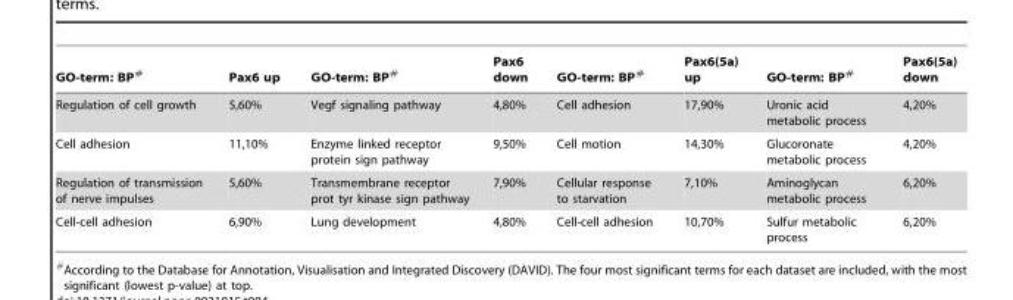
<table><thead><tr><td>GO-term: BP#</td><td>Pax6 up</td><td>GO-term: BP#</td><td>Pax6 down</td><td>GO-term: BP#</td><td>Pax6(5a) up</td><td>GO-term: BP#</td><td>Pax6(5a) down</td></tr></thead><tbody><tr><td>Regulation of cell growth</td><td>5,60%</td><td>Vegf signaling pathway</td><td>4,80%</td><td>Cell adhesion</td><td>17,90%</td><td>Uronic acid metabolic process</td><td>4,20%</td></tr><tr><td>Cell adhesion</td><td>11,10%</td><td>Enzyme linked receptor protein sign pathway</td><td>9,50%</td><td>Cell motion</td><td>14,30%</td><td>Glucoronate metabolic process</td><td>4,20%</td></tr><tr><td>Regulation of transmission of nerve impulses</td><td>5,60%</td><td>Transmembrane receptor prot tyr kinase sign pathway</td><td>7,90%</td><td>Cellular response to starvation</td><td>7,10%</td><td>Aminoglycan metabolic process</td><td>6,20%</td></tr><tr><td>Cell-cell adhesion</td><td>6,90%</td><td>Lung development</td><td>4,80%</td><td>Cell-cell adhesion</td><td>10,70%</td><td>Sulfur metabolic process</td><td>6,20%</td></tr></tbody></table>